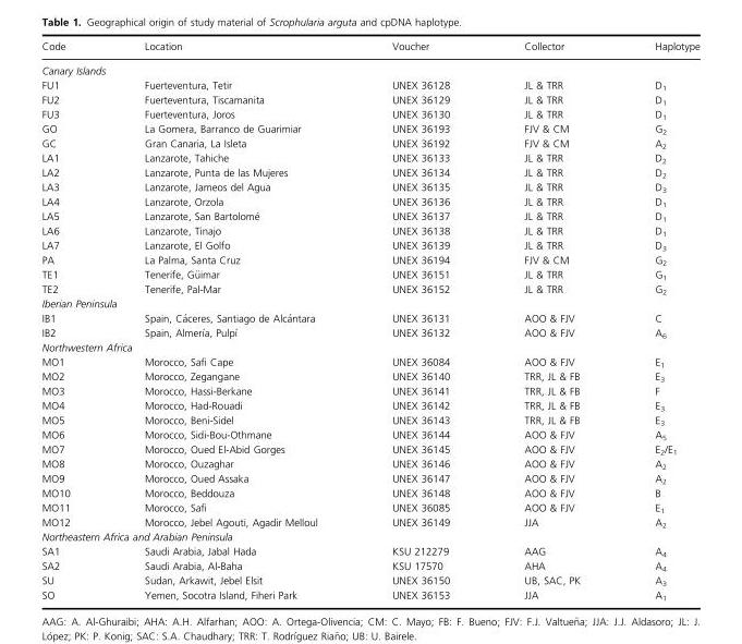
<table><thead><tr><td>Code</td><td>Location</td><td>Voucher</td><td>Collector</td><td>Haplotype</td></tr></thead><tbody><tr><td colspan="5">Canary Islands</td></tr><tr><td>FU1</td><td>Fuerteventura, Tetir</td><td>UNEX 36128</td><td>JL &amp; TRR</td><td>D<sub>1</sub></td></tr><tr><td>FU2</td><td>Fuerteventura, Tiscamanita</td><td>UNEX 36129</td><td>JL &amp; TRR</td><td>D<sub>1</sub></td></tr><tr><td>FU3</td><td>Fuerteventura, Joros</td><td>UNEX 36130</td><td>JL &amp; TRR</td><td>D<sub>1</sub></td></tr><tr><td>GO</td><td>La Gomera, Barranco de Guarimiar</td><td>UNEX 36193</td><td>FJV &amp; CM</td><td>G<sub>2</sub></td></tr><tr><td>GC</td><td>Gran Canaria, La Isleta</td><td>UNEX 36192</td><td>FJV &amp; CM</td><td>A<sub>2</sub></td></tr><tr><td>LA1</td><td>Lanzarote, Tahiche</td><td>UNEX 36133</td><td>JL &amp; TRR</td><td>D<sub>2</sub></td></tr><tr><td>LA2</td><td>Lanzarote, Punta de las Mujeres</td><td>UNEX 36134</td><td>JL &amp; TRR</td><td>D<sub>2</sub></td></tr><tr><td>LA3</td><td>Lanzarote, Jameos del Agua</td><td>UNEX 36135</td><td>JL &amp; TRR</td><td>D<sub>3</sub></td></tr><tr><td>LA4</td><td>Lanzarote, Orzola</td><td>UNEX 36136</td><td>JL &amp; TRR</td><td>D<sub>1</sub></td></tr><tr><td>LA5</td><td>Lanzarote, San Bartolom�e</td><td>UNEX 36137</td><td>JL &amp; TRR</td><td>D<sub>1</sub></td></tr><tr><td>LA6</td><td>Lanzarote, Tinajo</td><td>UNEX 36138</td><td>JL &amp; TRR</td><td>D<sub>1</sub></td></tr><tr><td>LA7</td><td>Lanzarote, El Golfo</td><td>UNEX 36139</td><td>JL &amp; TRR</td><td>D<sub>3</sub></td></tr><tr><td>PA</td><td>La Palma, Santa Cruz</td><td>UNEX 36194</td><td>FJV &amp; CM</td><td>G<sub>2</sub></td></tr><tr><td>TE1</td><td>Tenerife, G€uimar</td><td>UNEX 36151</td><td>JL &amp; TRR</td><td>G<sub>1</sub></td></tr><tr><td>TE2</td><td>Tenerife, Pal-Mar</td><td>UNEX 36152</td><td>JL &amp; TRR</td><td>G<sub>2</sub></td></tr><tr><td colspan="5">Iberian Peninsula</td></tr><tr><td>IB1</td><td>Spain, C�aceres, Santiago de Alc�antara</td><td>UNEX 36131</td><td>AOO &amp; FJV</td><td>C</td></tr><tr><td>IB2</td><td>Spain, Almer�ıa, Pulp�ı</td><td>UNEX 36132</td><td>AOO &amp; FJV</td><td>A<sub>6</sub></td></tr><tr><td colspan="5">Northwestern Africa</td></tr><tr><td>MO1</td><td>Morocco, Safi Cape</td><td>UNEX 36084</td><td>AOO &amp; FJV</td><td>E<sub>1</sub></td></tr><tr><td>MO2</td><td>Morocco, Zegangane</td><td>UNEX 36140</td><td>TRR, JL &amp; FB</td><td>E<sub>3</sub></td></tr><tr><td>MO3</td><td>Morocco, Hassi-Berkane</td><td>UNEX 36141</td><td>TRR, JL &amp; FB</td><td>F</td></tr><tr><td>MO4</td><td>Morocco, Had-Rouadi</td><td>UNEX 36142</td><td>TRR, JL &amp; FB</td><td>E<sub>3</sub></td></tr><tr><td>MO5</td><td>Morocco, Beni-Sidel</td><td>UNEX 36143</td><td>TRR, JL &amp; FB</td><td>E<sub>3</sub></td></tr><tr><td>MO6</td><td>Morocco, Sidi-Bou-Othmane</td><td>UNEX 36144</td><td>AOO &amp; FJV</td><td>A<sub>5</sub></td></tr><tr><td>MO7</td><td>Morocco, Oued El-Abid Gorges</td><td>UNEX 36145</td><td>AOO &amp; FJV</td><td>E<sub>2</sub>/E<sub>1</sub></td></tr><tr><td>MO8</td><td>Morocco, Ouzaghar</td><td>UNEX 36146</td><td>AOO &amp; FJV</td><td>A<sub>2</sub></td></tr><tr><td>MO9</td><td>Morocco, Oued Assaka</td><td>UNEX 36147</td><td>AOO &amp; FJV</td><td>A<sub>2</sub></td></tr><tr><td>MO10</td><td>Morocco, Beddouza</td><td>UNEX 36148</td><td>AOO &amp; FJV</td><td>B</td></tr><tr><td>MO11</td><td>Morocco, Safi</td><td>UNEX 36085</td><td>AOO &amp; FJV</td><td>E<sub>1</sub></td></tr><tr><td>MO12</td><td>Morocco, Jebel Agouti, Agadir Melloul</td><td>UNEX 36149</td><td>JJA</td><td>A<sub>2</sub></td></tr><tr><td colspan="5">Northeastern Africa and Arabian Peninsula</td></tr><tr><td>SA1</td><td>Saudi Arabia, Jabal Hada</td><td>KSU 212279</td><td>AAG</td><td>A<sub>4</sub></td></tr><tr><td>SA2</td><td>Saudi Arabia, Al-Baha</td><td>KSU 17570</td><td>AHA</td><td>A<sub>4</sub></td></tr><tr><td>SU</td><td>Sudan, Arkawit, Jebel Elsit</td><td>UNEX 36150</td><td>UB, SAC, PK</td><td>A<sub>3</sub></td></tr><tr><td>SO</td><td>Yemen, Socotra Island, Fiheri Park</td><td>UNEX 36153</td><td>JJA</td><td>A<sub>1</sub></td></tr></tbody></table>